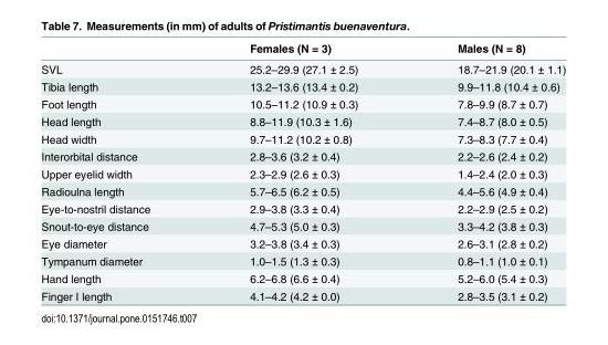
<table><thead><tr><td></td><td>Females (N = 3)</td><td>Males (N = 8)</td></tr></thead><tbody><tr><td>SVL</td><td>25.2–29.9 (27.1 ± 2.5)</td><td>18.7–21.9 (20.1 ± 1.1)</td></tr><tr><td>Tibia length</td><td>13.2–13.6 (13.4 ± 0.2)</td><td>9.9–11.8 (10.4 ± 0.6)</td></tr><tr><td>Foot length</td><td>10.5–11.2 (10.9 ± 0.3)</td><td>7.8–9.9 (8.7 ± 0.7)</td></tr><tr><td>Head length</td><td>8.8–11.9 (10.3 ± 1.6)</td><td>7.4–8.7 (8.0 ± 0.5)</td></tr><tr><td>Head width</td><td>9.7–11.2 (10.2 ± 0.8)</td><td>7.3–8.3 (7.7 ± 0.4)</td></tr><tr><td>Interorbital distance</td><td>2.8–3.6 (3.2 ± 0.4)</td><td>2.2–2.6 (2.4 ± 0.2)</td></tr><tr><td>Upper eyelid width</td><td>2.3–2.9 (2.6 ± 0.3)</td><td>1.4–2.4 (2.0 ± 0.3)</td></tr><tr><td>Radioulna length</td><td>5.7–6.5 (6.2 ± 0.5)</td><td>4.4–5.6 (4.9 ± 0.4)</td></tr><tr><td>Eye-to-nostril distance</td><td>2.9–3.8 (3.3 ± 0.4)</td><td>2.2–2.9 (2.5 ± 0.2)</td></tr><tr><td>Snout-to-eye distance</td><td>4.7–5.3 (5.0 ± 0.3)</td><td>3.3–4.2 (3.8 ± 0.3)</td></tr><tr><td>Eye diameter</td><td>3.2–3.8 (3.4 ± 0.3)</td><td>2.6–3.1 (2.8 ± 0.2)</td></tr><tr><td>Tympanum diameter</td><td>1.0–1.5 (1.3 ± 0.3)</td><td>0.8–1.1 (1.0 ± 0.1)</td></tr><tr><td>Hand length</td><td>6.2–6.8 (6.6 ± 0.4)</td><td>5.2–6.0 (5.4 ± 0.3)</td></tr><tr><td>Finger I length</td><td>4.1–4.2 (4.2 ± 0.0)</td><td>2.8–3.5 (3.1 ± 0.2)</td></tr></tbody></table>